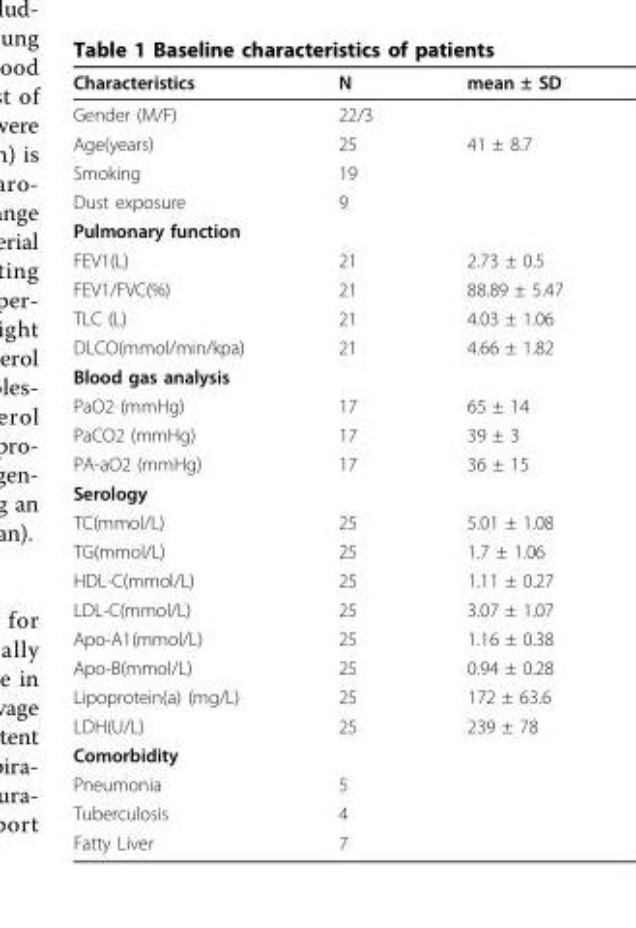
<table><thead><tr><td>Characteristics</td><td>N</td><td>mean ± SD</td></tr></thead><tbody><tr><td>Gender (M/F)</td><td>22/3</td><td></td></tr><tr><td>Age(years)</td><td>25</td><td>41 ± 8.7</td></tr><tr><td>Smoking</td><td>19</td><td></td></tr><tr><td>Dust exposure</td><td>9</td><td></td></tr><tr><td colspan="3">Pulmonary function</td></tr><tr><td>FEV1(L)</td><td>21</td><td>2.73 ± 0.5</td></tr><tr><td>FEV1/FVC(%)</td><td>21</td><td>88.89 ± 5.47</td></tr><tr><td>TLC (L)</td><td>21</td><td>4.03 ± 1.06</td></tr><tr><td>DLCO(mmol/min/kpa)</td><td>21</td><td>4.66 ± 1.82</td></tr><tr><td colspan="3">Blood gas analysis</td></tr><tr><td>PaO2 (mmHg)</td><td>17</td><td>65 ± 14</td></tr><tr><td>PaCO2 (mmHg)</td><td>17</td><td>39 ± 3</td></tr><tr><td>PA-aO2 (mmHg)</td><td>17</td><td>36 ± 15</td></tr><tr><td colspan="3">Serology</td></tr><tr><td>TC(mmol/L)</td><td>25</td><td>5.01 ± 1.08</td></tr><tr><td>TG(mmol/L)</td><td>25</td><td>1.7 ± 1.06</td></tr><tr><td>HDL-C(mmol/L)</td><td>25</td><td>1.11 ± 0.27</td></tr><tr><td>LDL-C(mmol/L)</td><td>25</td><td>3.07 ± 1.07</td></tr><tr><td>Apo-A1(mmol/L)</td><td>25</td><td>1.16 ± 0.38</td></tr><tr><td>Apo-B(mmol/L)</td><td>25</td><td>0.94 ± 0.28</td></tr><tr><td>Lipoprotein(a) (mg/L)</td><td>25</td><td>172 ± 63.6</td></tr><tr><td>LDH(U/L)</td><td>25</td><td>239 ± 78</td></tr><tr><td colspan="3">Comorbidity</td></tr><tr><td>Pneumonia</td><td>5</td><td></td></tr><tr><td>Tuberculosis</td><td>4</td><td></td></tr><tr><td>Fatty Liver</td><td>7</td><td></td></tr></tbody></table>